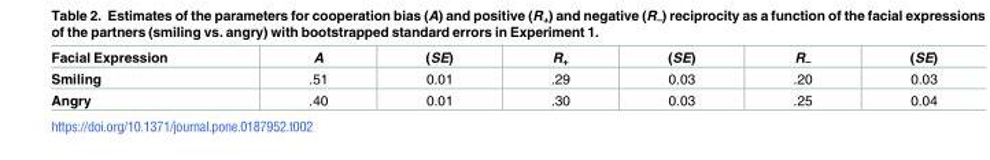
<table><thead><tr><td>Facial Expression</td><td>A</td><td>(SE)</td><td>R<sub>+</sub></td><td>(SE)</td><td>R<sub>–</sub></td><td>(SE)</td></tr></thead><tbody><tr><td>Smiling</td><td>.51</td><td>0.01</td><td>.29</td><td>0.03</td><td>.20</td><td>0.03</td></tr><tr><td>Angry</td><td>.40</td><td>0.01</td><td>.30</td><td>0.03</td><td>.25</td><td>0.04</td></tr></tbody></table>